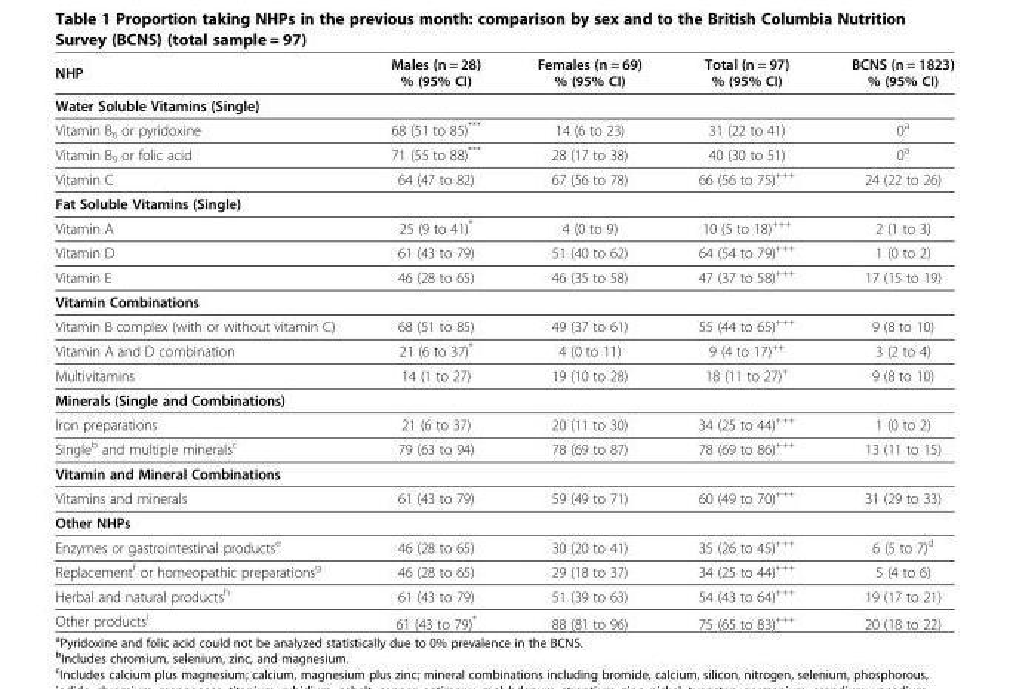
<table><thead><tr><td>NHP</td><td>Males (n = 28) % (95% CI)</td><td>Females (n = 69) % (95% CI)</td><td>Total (n = 97) % (95% CI)</td><td>BCNS (n = 1823) % (95% CI)</td></tr></thead><tbody><tr><td colspan="5">Water Soluble Vitamins (Single)</td></tr><tr><td>Vitamin B<sub>6</sub> or pyridoxine</td><td>68 (51 to 85)***</td><td>14 (6 to 23)</td><td>31 (22 to 41)</td><td>0<sup>a</sup></td></tr><tr><td>Vitamin B<sub>9</sub> or folic acid</td><td>71 (55 to 88)***</td><td>28 (17 to 38)</td><td>40 (30 to 51)</td><td>0<sup>a</sup></td></tr><tr><td>Vitamin C</td><td>64 (47 to 82)</td><td>67 (56 to 78)</td><td>66 (56 to 75)<sup>+++</sup></td><td>24 (22 to 26)</td></tr><tr><td colspan="5">Fat Soluble Vitamins (Single)</td></tr><tr><td>Vitamin A</td><td>25 (9 to 41)*</td><td>4 (0 to 9)</td><td>10 (5 to 18)<sup>+++</sup></td><td>2 (1 to 3)</td></tr><tr><td>Vitamin D</td><td>61 (43 to 79)</td><td>51 (40 to 62)</td><td>64 (54 to 79)<sup>+++</sup></td><td>1 (0 to 2)</td></tr><tr><td>Vitamin E</td><td>46 (28 to 65)</td><td>46 (35 to 58)</td><td>47 (37 to 58)<sup>+++</sup></td><td>17 (15 to 19)</td></tr><tr><td colspan="5">Vitamin Combinations</td></tr><tr><td>Vitamin B complex (with or without vitamin C)</td><td>68 (51 to 85)</td><td>49 (37 to 61)</td><td>55 (44 to 65)<sup>+++</sup></td><td>9 (8 to 10)</td></tr><tr><td>Vitamin A and D combination</td><td>21 (6 to 37)*</td><td>4 (0 to 11)</td><td>9 (4 to 17)<sup>++</sup></td><td>3 (2 to 4)</td></tr><tr><td>Multivitamins</td><td>14 (1 to 27)</td><td>19 (10 to 28)</td><td>18 (11 to 27)<sup>+</sup></td><td>9 (8 to 10)</td></tr><tr><td colspan="5">Minerals (Single and Combinations)</td></tr><tr><td>Iron preparations</td><td>21 (6 to 37)</td><td>20 (11 to 30)</td><td>34 (25 to 44)<sup>+++</sup></td><td>1 (0 to 2)</td></tr><tr><td>Single<sup>b</sup> and multiple minerals<sup>c</sup></td><td>79 (63 to 94)</td><td>78 (69 to 87)</td><td>78 (69 to 86)<sup>+++</sup></td><td>13 (11 to 15)</td></tr><tr><td colspan="5">Vitamin and Mineral Combinations</td></tr><tr><td>Vitamins and minerals</td><td>61 (43 to 79)</td><td>59 (49 to 71)</td><td>60 (49 to 70)<sup>+++</sup></td><td>31 (29 to 33)</td></tr><tr><td colspan="5">Other NHPs</td></tr><tr><td>Enzymes or gastrointestinal products<sup>e</sup></td><td>46 (28 to 65)</td><td>30 (20 to 41)</td><td>35 (26 to 45)<sup>+++</sup></td><td>6 (5 to 7)<sup>d</sup></td></tr><tr><td>Replacement<sup>f</sup> or homeopathic preparations<sup>g</sup></td><td>46 (28 to 65)</td><td>29 (18 to 37)</td><td>34 (25 to 44)<sup>+++</sup></td><td>5 (4 to 6)</td></tr><tr><td>Herbal and natural products<sup>h</sup></td><td>61 (43 to 79)</td><td>51 (39 to 63)</td><td>54 (43 to 64)<sup>+++</sup></td><td>19 (17 to 21)</td></tr><tr><td>Other products<sup>i</sup></td><td>61 (43 to 79)*</td><td>88 (81 to 96)</td><td>75 (65 to 83)<sup>+++</sup></td><td>20 (18 to 22)</td></tr></tbody></table>